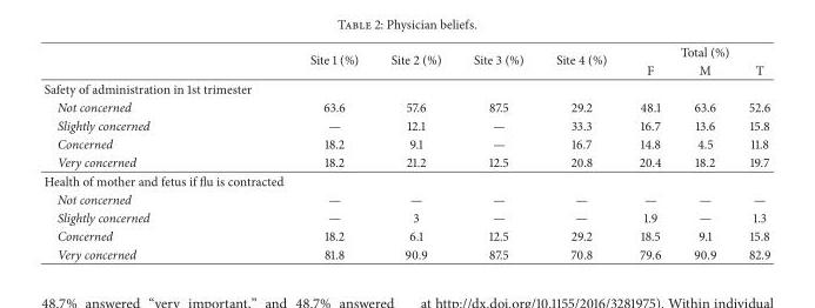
<table><thead><tr><td rowspan="2"></td><td rowspan="2">Site 1 (%)</td><td rowspan="2">Site 2 (%)</td><td rowspan="2">Site 3 (%)</td><td rowspan="2">Site 4 (%)</td><td colspan="3">Total (%)</td></tr><tr><td>F</td><td>M</td><td>T</td></tr></thead><tbody><tr><td colspan="8">Safety of administration in 1st trimester</td></tr><tr><td>Not concerned</td><td>63.6</td><td>57.6</td><td>87.5</td><td>29.2</td><td>48.1</td><td>63.6</td><td>52.6</td></tr><tr><td>Slightly concerned</td><td>—</td><td>12.1</td><td>—</td><td>33.3</td><td>16.7</td><td>13.6</td><td>15.8</td></tr><tr><td>Concerned</td><td>18.2</td><td>9.1</td><td>—</td><td>16.7</td><td>14.8</td><td>4.5</td><td>11.8</td></tr><tr><td>Very concerned</td><td>18.2</td><td>21.2</td><td>12.5</td><td>20.8</td><td>20.4</td><td>18.2</td><td>19.7</td></tr><tr><td colspan="8">Health of mother and fetus if flu is contracted</td></tr><tr><td>Not concerned</td><td>—</td><td>—</td><td>—</td><td>—</td><td>—</td><td>—</td><td>—</td></tr><tr><td>Slightly concerned</td><td>—</td><td>3</td><td>—</td><td>—</td><td>1.9</td><td>—</td><td>1.3</td></tr><tr><td>Concerned</td><td>18.2</td><td>6.1</td><td>12.5</td><td>29.2</td><td>18.5</td><td>9.1</td><td>15.8</td></tr><tr><td>Very concerned</td><td>81.8</td><td>90.9</td><td>87.5</td><td>70.8</td><td>79.6</td><td>90.9</td><td>82.9</td></tr></tbody></table>